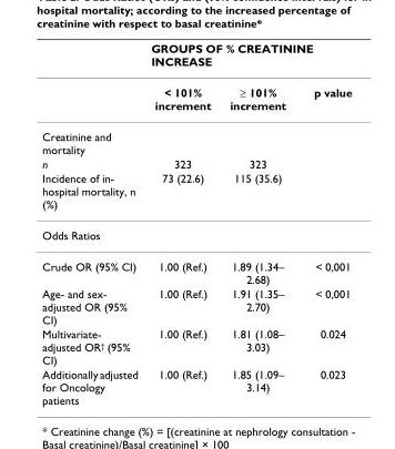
<table><thead><tr><td rowspan="2"></td><td colspan="3">GROUPS OF % CREATININE INCREASE</td></tr><tr><td>&lt; 101% increment</td><td>≥ 101% increment</td><td>p value</td></tr></thead><tbody><tr><td colspan="4">Creatinine and mortality</td></tr><tr><td>n</td><td>323</td><td>323</td><td></td></tr><tr><td>Incidence of in- hospital mortality, n (%)</td><td>73 (22.6)</td><td>115 (35.6)</td><td></td></tr><tr><td colspan="4">Odds Ratios</td></tr><tr><td>Crude OR (95% CI)</td><td>1.00 (Ref.)</td><td>1.89 (1.34– 2.68)</td><td>&lt; 0,001</td></tr><tr><td>Age- and sex- adjusted OR (95% CI)</td><td>1.00 (Ref.)</td><td>1.91 (1.35– 2.70)</td><td>&lt; 0,001</td></tr><tr><td>Multivariate- adjusted OR<sup>†</sup> (95% CI)</td><td>1.00 (Ref.)</td><td>1.81 (1.08– 3.03)</td><td>0.024</td></tr><tr><td>Additionally adjusted for Oncology patients</td><td>1.00 (Ref.)</td><td>1.85 (1.09– 3.14)</td><td>0.023</td></tr></tbody></table>